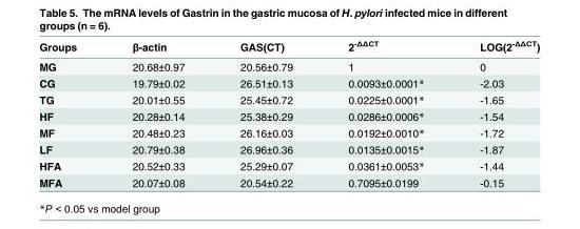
<table><thead><tr><td>Groups</td><td>β-actin</td><td>GAS(CT)</td><td>2<sup>-ΔΔCT</sup></td><td>LOG(2<sup>-ΔΔCT</sup>)</td></tr></thead><tbody><tr><td>MG</td><td>20.68±0.97</td><td>20.56±0.79</td><td>1</td><td>0</td></tr><tr><td>CG</td><td>19.79±0.02</td><td>26.51±0.13</td><td>0.0093±0.0001*</td><td>-2.03</td></tr><tr><td>TG</td><td>20.01±0.55</td><td>25.45±0.72</td><td>0.0225±0.0001*</td><td>-1.65</td></tr><tr><td>HF</td><td>20.28±0.14</td><td>25.38±0.29</td><td>0.0286±0.0006*</td><td>-1.54</td></tr><tr><td>MF</td><td>20.48±0.23</td><td>26.16±0.03</td><td>0.0192±0.0010*</td><td>-1.72</td></tr><tr><td>LF</td><td>20.79±0.38</td><td>26.96±0.36</td><td>0.0135±0.0015*</td><td>-1.87</td></tr><tr><td>HFA</td><td>20.52±0.33</td><td>25.29±0.07</td><td>0.0361±0.0053*</td><td>-1.44</td></tr><tr><td>MFA</td><td>20.07±0.08</td><td>20.54±0.22</td><td>0.7095±0.0199</td><td>-0.15</td></tr></tbody></table>